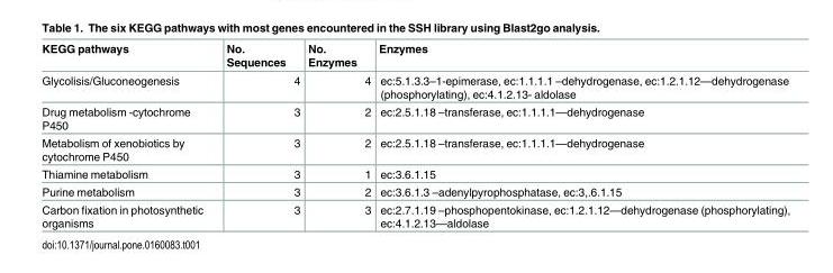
<table><thead><tr><td>KEGG pathways</td><td>No. Sequences</td><td>No. Enzymes</td><td>Enzymes</td></tr></thead><tbody><tr><td>Glycolisis/Gluconeogenesis</td><td>4</td><td>4</td><td>ec:5.1.3.3–1-epimerase, ec:1.1.1.1 –dehydrogenase, ec:1.2.1.12—dehydrogenase (phosphorylating), ec:4.1.2.13- aldolase</td></tr><tr><td>Drug metabolism -cytochrome P450</td><td>3</td><td>2</td><td>ec:2.5.1.18 –transferase, ec:1.1.1.1—dehydrogenase</td></tr><tr><td>Metabolism of xenobiotics by cytochrome P450</td><td>3</td><td>2</td><td>ec:2.5.1.18 –transferase, ec:1.1.1.1—dehydrogenase</td></tr><tr><td>Thiamine metabolism</td><td>3</td><td>1</td><td>ec:3.6.1.15</td></tr><tr><td>Purine metabolism</td><td>3</td><td>2</td><td>ec:3.6.1.3 –adenylpyrophosphatase, ec:3,.6.1.15</td></tr><tr><td>Carbon fixation in photosynthetic organisms</td><td>3</td><td>3</td><td>ec:2.7.1.19 –phosphopentokinase, ec:1.2.1.12—dehydrogenase (phosphorylating), ec:4.1.2.13—aldolase</td></tr></tbody></table>